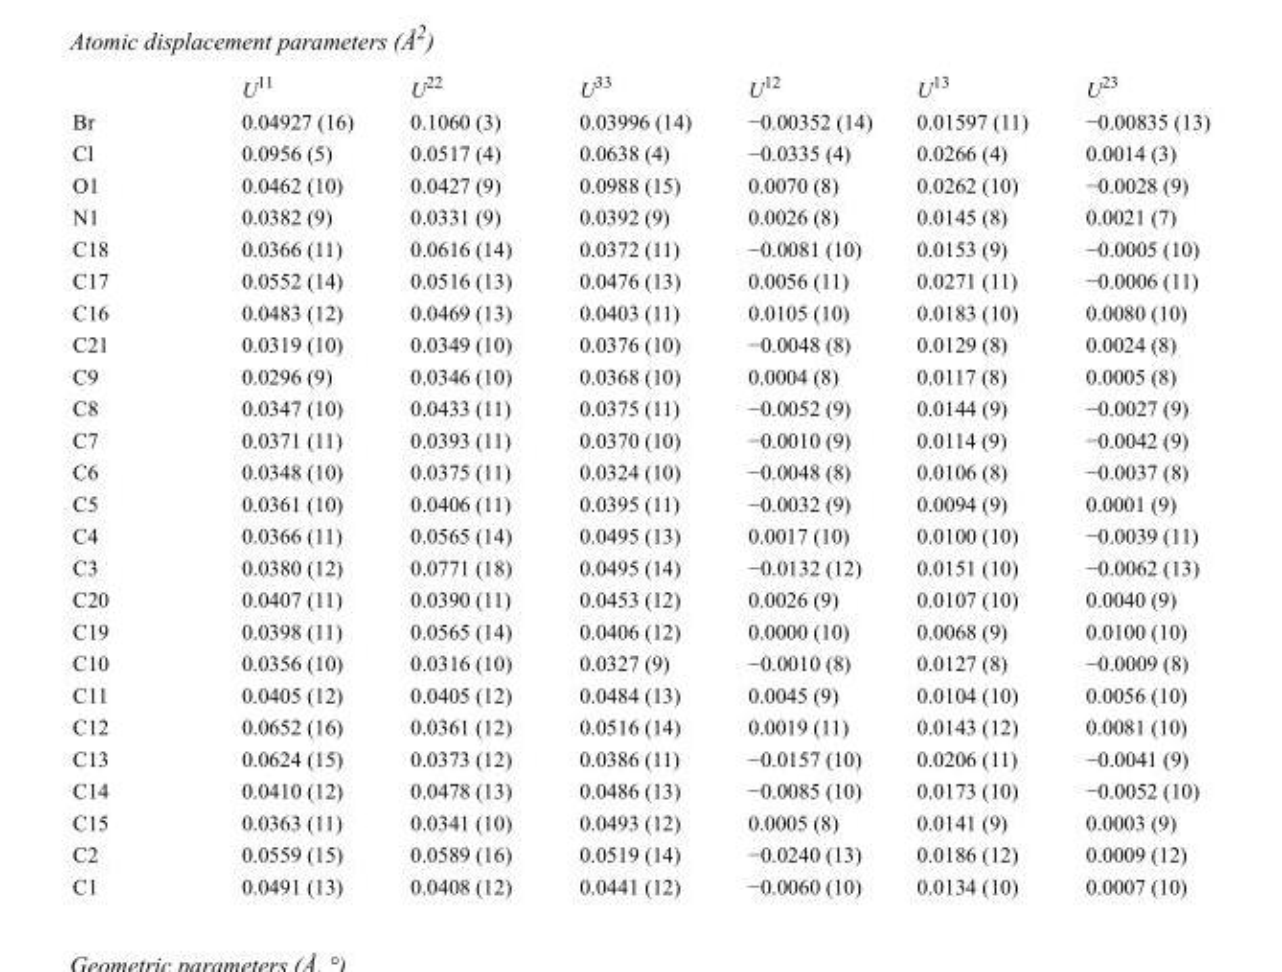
<table><thead><tr><td></td><td>U<sup>11</sup></td><td>U<sup>22</sup></td><td>U<sup>33</sup></td><td>U<sup>12</sup></td><td>U<sup>13</sup></td><td>U<sup>23</sup></td></tr></thead><tbody><tr><td>Br</td><td>0.04927 (16)</td><td>0.1060 (3)</td><td>0.03996 (14)</td><td>−0.00352 (14)</td><td>0.01597 (11)</td><td>−0.00835 (13)</td></tr><tr><td>Cl</td><td>0.0956 (5)</td><td>0.0517 (4)</td><td>0.0638 (4)</td><td>−0.0335 (4)</td><td>0.0266 (4)</td><td>0.0014 (3)</td></tr><tr><td>O1</td><td>0.0462 (10)</td><td>0.0427 (9)</td><td>0.0988 (15)</td><td>0.0070 (8)</td><td>0.0262 (10)</td><td>−0.0028 (9)</td></tr><tr><td>N1</td><td>0.0382 (9)</td><td>0.0331 (9)</td><td>0.0392 (9)</td><td>0.0026 (8)</td><td>0.0145 (8)</td><td>0.0021 (7)</td></tr><tr><td>C18</td><td>0.0366 (11)</td><td>0.0616 (14)</td><td>0.0372 (11)</td><td>−0.0081 (10)</td><td>0.0153 (9)</td><td>−0.0005 (10)</td></tr><tr><td>C17</td><td>0.0552 (14)</td><td>0.0516 (13)</td><td>0.0476 (13)</td><td>0.0056 (11)</td><td>0.0271 (11)</td><td>−0.0006 (11)</td></tr><tr><td>C16</td><td>0.0483 (12)</td><td>0.0469 (13)</td><td>0.0403 (11)</td><td>0.0105 (10)</td><td>0.0183 (10)</td><td>0.0080 (10)</td></tr><tr><td>C21</td><td>0.0319 (10)</td><td>0.0349 (10)</td><td>0.0376 (10)</td><td>−0.0048 (8)</td><td>0.0129 (8)</td><td>0.0024 (8)</td></tr><tr><td>C9</td><td>0.0296 (9)</td><td>0.0346 (10)</td><td>0.0368 (10)</td><td>0.0004 (8)</td><td>0.0117 (8)</td><td>0.0005 (8)</td></tr><tr><td>C8</td><td>0.0347 (10)</td><td>0.0433 (11)</td><td>0.0375 (11)</td><td>−0.0052 (9)</td><td>0.0144 (9)</td><td>−0.0027 (9)</td></tr><tr><td>C7</td><td>0.0371 (11)</td><td>0.0393 (11)</td><td>0.0370 (10)</td><td>−0.0010 (9)</td><td>0.0114 (9)</td><td>−0.0042 (9)</td></tr><tr><td>C6</td><td>0.0348 (10)</td><td>0.0375 (11)</td><td>0.0324 (10)</td><td>−0.0048 (8)</td><td>0.0106 (8)</td><td>−0.0037 (8)</td></tr><tr><td>C5</td><td>0.0361 (10)</td><td>0.0406 (11)</td><td>0.0395 (11)</td><td>−0.0032 (9)</td><td>0.0094 (9)</td><td>0.0001 (9)</td></tr><tr><td>C4</td><td>0.0366 (11)</td><td>0.0565 (14)</td><td>0.0495 (13)</td><td>0.0017 (10)</td><td>0.0100 (10)</td><td>−0.0039 (11)</td></tr><tr><td>C3</td><td>0.0380 (12)</td><td>0.0771 (18)</td><td>0.0495 (14)</td><td>−0.0132 (12)</td><td>0.0151 (10)</td><td>−0.0062 (13)</td></tr><tr><td>C20</td><td>0.0407 (11)</td><td>0.0390 (11)</td><td>0.0453 (12)</td><td>0.0026 (9)</td><td>0.0107 (10)</td><td>0.0040 (9)</td></tr><tr><td>C19</td><td>0.0398 (11)</td><td>0.0565 (14)</td><td>0.0406 (12)</td><td>0.0000 (10)</td><td>0.0068 (9)</td><td>0.0100 (10)</td></tr><tr><td>C10</td><td>0.0356 (10)</td><td>0.0316 (10)</td><td>0.0327 (9)</td><td>−0.0010 (8)</td><td>0.0127 (8)</td><td>−0.0009 (8)</td></tr><tr><td>C11</td><td>0.0405 (12)</td><td>0.0405 (12)</td><td>0.0484 (13)</td><td>0.0045 (9)</td><td>0.0104 (10)</td><td>0.0056 (10)</td></tr><tr><td>C12</td><td>0.0652 (16)</td><td>0.0361 (12)</td><td>0.0516 (14)</td><td>0.0019 (11)</td><td>0.0143 (12)</td><td>0.0081 (10)</td></tr><tr><td>C13</td><td>0.0624 (15)</td><td>0.0373 (12)</td><td>0.0386 (11)</td><td>−0.0157 (10)</td><td>0.0206 (11)</td><td>−0.0041 (9)</td></tr><tr><td>C14</td><td>0.0410 (12)</td><td>0.0478 (13)</td><td>0.0486 (13)</td><td>−0.0085 (10)</td><td>0.0173 (10)</td><td>−0.0052 (10)</td></tr><tr><td>C15</td><td>0.0363 (11)</td><td>0.0341 (10)</td><td>0.0493 (12)</td><td>0.0005 (8)</td><td>0.0141 (9)</td><td>0.0003 (9)</td></tr><tr><td>C2</td><td>0.0559 (15)</td><td>0.0589 (16)</td><td>0.0519 (14)</td><td>−0.0240 (13)</td><td>0.0186 (12)</td><td>0.0009 (12)</td></tr><tr><td>C1</td><td>0.0491 (13)</td><td>0.0408 (12)</td><td>0.0441 (12)</td><td>−0.0060 (10)</td><td>0.0134 (10)</td><td>0.0007 (10)</td></tr></tbody></table>